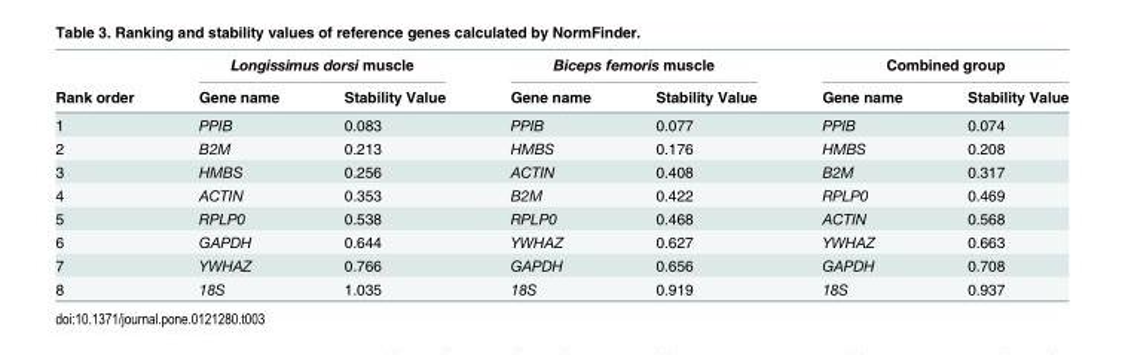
<table><thead><tr><td rowspan="2">Rank order</td><td colspan="2">Longissimus dorsi muscle</td><td colspan="2">Biceps femoris muscle</td><td colspan="2">Combined group</td></tr><tr><td>Gene name</td><td>Stability Value</td><td>Gene name</td><td>Stability Value</td><td>Gene name</td><td>Stability Value</td></tr></thead><tbody><tr><td>1</td><td>PPIB</td><td>0.083</td><td>PPIB</td><td>0.077</td><td>PPIB</td><td>0.074</td></tr><tr><td>2</td><td>B2M</td><td>0.213</td><td>HMBS</td><td>0.176</td><td>HMBS</td><td>0.208</td></tr><tr><td>3</td><td>HMBS</td><td>0.256</td><td>ACTIN</td><td>0.408</td><td>B2M</td><td>0.317</td></tr><tr><td>4</td><td>ACTIN</td><td>0.353</td><td>B2M</td><td>0.422</td><td>RPLP0</td><td>0.469</td></tr><tr><td>5</td><td>RPLP0</td><td>0.538</td><td>RPLP0</td><td>0.468</td><td>ACTIN</td><td>0.568</td></tr><tr><td>6</td><td>GAPDH</td><td>0.644</td><td>YWHAZ</td><td>0.627</td><td>YWHAZ</td><td>0.663</td></tr><tr><td>7</td><td>YWHAZ</td><td>0.766</td><td>GAPDH</td><td>0.656</td><td>GAPDH</td><td>0.708</td></tr><tr><td>8</td><td>18S</td><td>1.035</td><td>18S</td><td>0.919</td><td>18S</td><td>0.937</td></tr></tbody></table>